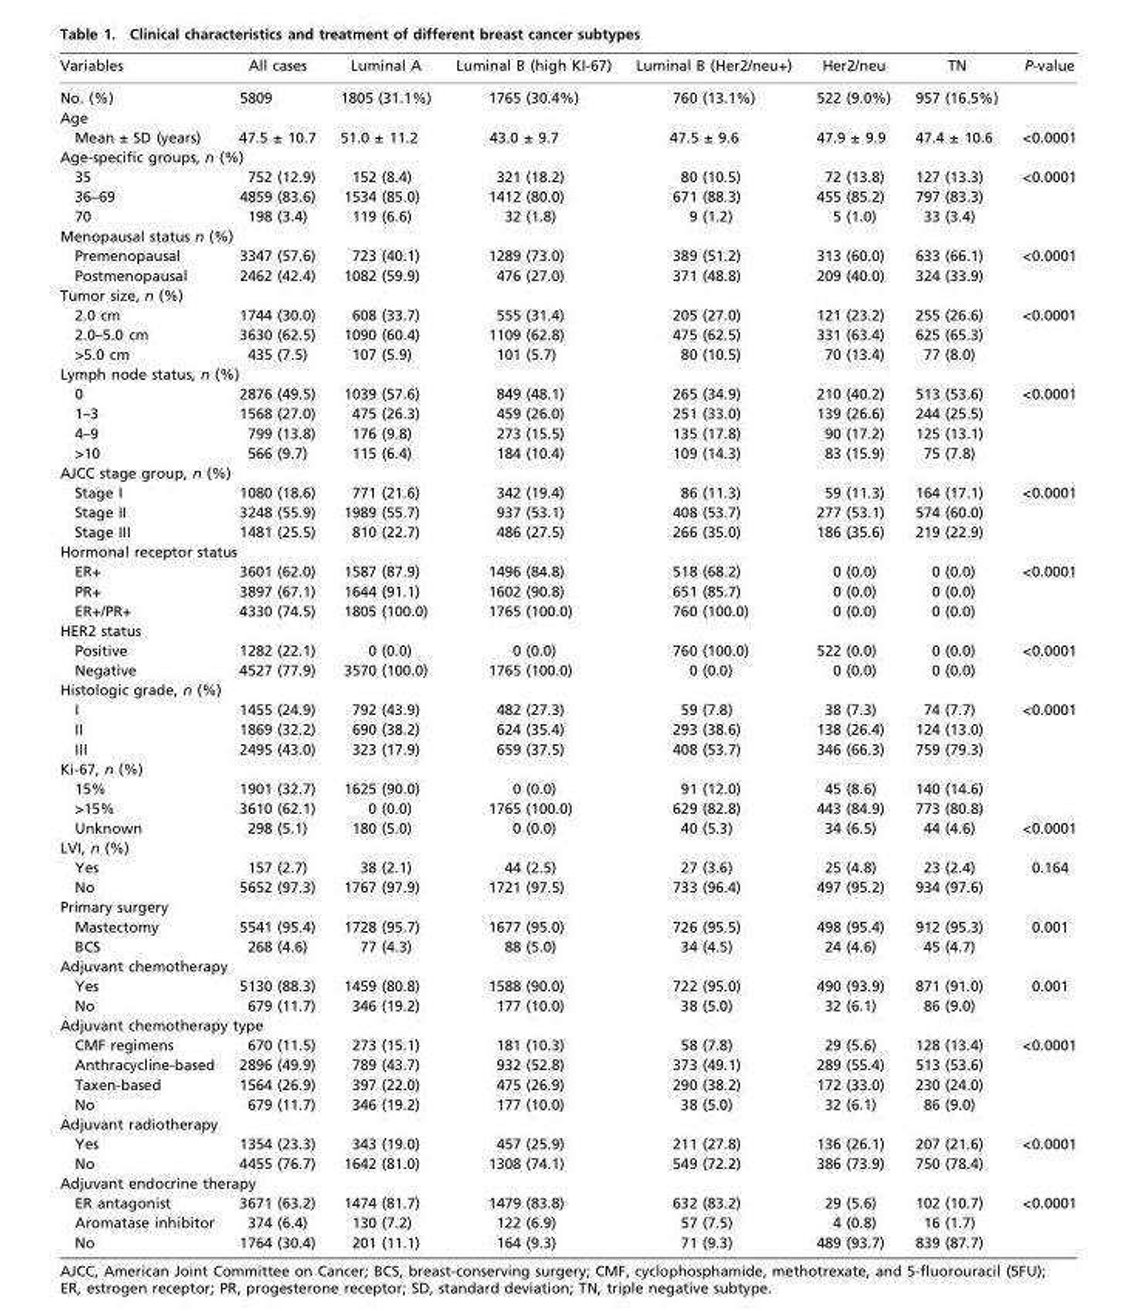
<table><thead><tr><td>Variables</td><td>All cases</td><td>Luminal A</td><td>Luminal B (high KI-67)</td><td>Luminal B (Her2/neu+)</td><td>Her2/neu</td><td>TN</td><td>P-value</td></tr></thead><tbody><tr><td>No. (%)</td><td>5809</td><td>1805 (31.1%)</td><td>1765 (30.4%)</td><td>760 (13.1%)</td><td>522 (9.0%)</td><td>957 (16.5%)</td><td></td></tr><tr><td colspan="8">Age</td></tr><tr><td>Mean ± SD (years)</td><td>47.5 ± 10.7</td><td>51.0 ± 11.2</td><td>43.0 ± 9.7</td><td>47.5 ± 9.6</td><td>47.9 ± 9.9</td><td>47.4 ± 10.6</td><td>&lt;0.0001</td></tr><tr><td colspan="8">Age-specific groups, n (%)</td></tr><tr><td>35</td><td>752 (12.9)</td><td>152 (8.4)</td><td>321 (18.2)</td><td>80 (10.5)</td><td>72 (13.8)</td><td>127 (13.3)</td><td rowspan="3">&lt;0.0001</td></tr><tr><td>36–69</td><td>4859 (83.6)</td><td>1534 (85.0)</td><td>1412 (80.0)</td><td>671 (88.3)</td><td>455 (85.2)</td><td>797 (83.3)</td></tr><tr><td>70</td><td>198 (3.4)</td><td>119 (6.6)</td><td>32 (1.8)</td><td>9 (1.2)</td><td>5 (1.0)</td><td>33 (3.4)</td></tr><tr><td colspan="8">Menopausal status n (%)</td></tr><tr><td>Premenopausal</td><td>3347 (57.6)</td><td>723 (40.1)</td><td>1289 (73.0)</td><td>389 (51.2)</td><td>313 (60.0)</td><td>633 (66.1)</td><td rowspan="2">&lt;0.0001</td></tr><tr><td>Postmenopausal</td><td>2462 (42.4)</td><td>1082 (59.9)</td><td>476 (27.0)</td><td>371 (48.8)</td><td>209 (40.0)</td><td>324 (33.9)</td></tr><tr><td colspan="8">Tumor size, n (%)</td></tr><tr><td>2.0 cm</td><td>1744 (30.0)</td><td>608 (33.7)</td><td>555 (31.4)</td><td>205 (27.0)</td><td>121 (23.2)</td><td>255 (26.6)</td><td rowspan="3">&lt;0.0001</td></tr><tr><td>2.0–5.0 cm</td><td>3630 (62.5)</td><td>1090 (60.4)</td><td>1109 (62.8)</td><td>475 (62.5)</td><td>331 (63.4)</td><td>625 (65.3)</td></tr><tr><td>&gt;5.0 cm</td><td>435 (7.5)</td><td>107 (5.9)</td><td>101 (5.7)</td><td>80 (10.5)</td><td>70 (13.4)</td><td>77 (8.0)</td></tr><tr><td colspan="8">Lymph node status, n (%)</td></tr><tr><td>0</td><td>2876 (49.5)</td><td>1039 (57.6)</td><td>849 (48.1)</td><td>265 (34.9)</td><td>210 (40.2)</td><td>513 (53.6)</td><td rowspan="4">&lt;0.0001</td></tr><tr><td>1–3</td><td>1568 (27.0)</td><td>475 (26.3)</td><td>459 (26.0)</td><td>251 (33.0)</td><td>139 (26.6)</td><td>244 (25.5)</td></tr><tr><td>4–9</td><td>799 (13.8)</td><td>176 (9.8)</td><td>273 (15.5)</td><td>135 (17.8)</td><td>90 (17.2)</td><td>125 (13.1)</td></tr><tr><td>&gt;10</td><td>566 (9.7)</td><td>115 (6.4)</td><td>184 (10.4)</td><td>109 (14.3)</td><td>83 (15.9)</td><td>75 (7.8)</td></tr><tr><td colspan="8">AJCC stage group, n (%)</td></tr><tr><td>Stage I</td><td>1080 (18.6)</td><td>771 (21.6)</td><td>342 (19.4)</td><td>86 (11.3)</td><td>59 (11.3)</td><td>164 (17.1)</td><td rowspan="3">&lt;0.0001</td></tr><tr><td>Stage II</td><td>3248 (55.9)</td><td>1989 (55.7)</td><td>937 (53.1)</td><td>408 (53.7)</td><td>277 (53.1)</td><td>574 (60.0)</td></tr><tr><td>Stage III</td><td>1481 (25.5)</td><td>810 (22.7)</td><td>486 (27.5)</td><td>266 (35.0)</td><td>186 (35.6)</td><td>219 (22.9)</td></tr><tr><td colspan="8">Hormonal receptor status</td></tr><tr><td>ER+</td><td>3601 (62.0)</td><td>1587 (87.9)</td><td>1496 (84.8)</td><td>518 (68.2)</td><td>0 (0.0)</td><td>0 (0.0)</td><td rowspan="3">&lt;0.0001</td></tr><tr><td>PR+</td><td>3897 (67.1)</td><td>1644 (91.1)</td><td>1602 (90.8)</td><td>651 (85.7)</td><td>0 (0.0)</td><td>0 (0.0)</td></tr><tr><td>ER+/PR+</td><td>4330 (74.5)</td><td>1805 (100.0)</td><td>1765 (100.0)</td><td>760 (100.0)</td><td>0 (0.0)</td><td>0 (0.0)</td></tr><tr><td colspan="8">HER2 status</td></tr><tr><td>Positive</td><td>1282 (22.1)</td><td>0 (0.0)</td><td>0 (0.0)</td><td>760 (100.0)</td><td>522 (0.0)</td><td>0 (0.0)</td><td rowspan="2">&lt;0.0001</td></tr><tr><td>Negative</td><td>4527 (77.9)</td><td>3570 (100.0)</td><td>1765 (100.0)</td><td>0 (0.0)</td><td>0 (0.0)</td><td>0 (0.0)</td></tr><tr><td colspan="8">Histologic grade, n (%)</td></tr><tr><td>I</td><td>1455 (24.9)</td><td>792 (43.9)</td><td>482 (27.3)</td><td>59 (7.8)</td><td>38 (7.3)</td><td>74 (7.7)</td><td rowspan="3">&lt;0.0001</td></tr><tr><td>II</td><td>1869 (32.2)</td><td>690 (38.2)</td><td>624 (35.4)</td><td>293 (38.6)</td><td>138 (26.4)</td><td>124 (13.0)</td></tr><tr><td>III</td><td>2495 (43.0)</td><td>323 (17.9)</td><td>659 (37.5)</td><td>408 (53.7)</td><td>346 (66.3)</td><td>759 (79.3)</td></tr><tr><td colspan="8">Ki-67, n (%)</td></tr><tr><td>15%</td><td>1901 (32.7)</td><td>1625 (90.0)</td><td>0 (0.0)</td><td>91 (12.0)</td><td>45 (8.6)</td><td>140 (14.6)</td><td></td></tr><tr><td>&gt;15%</td><td>3610 (62.1)</td><td>0 (0.0)</td><td>1765 (100.0)</td><td>629 (82.8)</td><td>443 (84.9)</td><td>773 (80.8)</td><td></td></tr><tr><td>Unknown</td><td>298 (5.1)</td><td>180 (5.0)</td><td>0 (0.0)</td><td>40 (5.3)</td><td>34 (6.5)</td><td>44 (4.6)</td><td>&lt;0.0001</td></tr><tr><td colspan="8">LVI, n (%)</td></tr><tr><td>Yes</td><td>157 (2.7)</td><td>38 (2.1)</td><td>44 (2.5)</td><td>27 (3.6)</td><td>25 (4.8)</td><td>23 (2.4)</td><td rowspan="2">0.164</td></tr><tr><td>No</td><td>5652 (97.3)</td><td>1767 (97.9)</td><td>1721 (97.5)</td><td>733 (96.4)</td><td>497 (95.2)</td><td>934 (97.6)</td></tr><tr><td colspan="8">Primary surgery</td></tr><tr><td>Mastectomy</td><td>5541 (95.4)</td><td>1728 (95.7)</td><td>1677 (95.0)</td><td>726 (95.5)</td><td>498 (95.4)</td><td>912 (95.3)</td><td rowspan="2">0.001</td></tr><tr><td>BCS</td><td>268 (4.6)</td><td>77 (4.3)</td><td>88 (5.0)</td><td>34 (4.5)</td><td>24 (4.6)</td><td>45 (4.7)</td></tr><tr><td colspan="8">Adjuvant chemotherapy</td></tr><tr><td>Yes</td><td>5130 (88.3)</td><td>1459 (80.8)</td><td>1588 (90.0)</td><td>722 (95.0)</td><td>490 (93.9)</td><td>871 (91.0)</td><td rowspan="2">0.001</td></tr><tr><td>No</td><td>679 (11.7)</td><td>346 (19.2)</td><td>177 (10.0)</td><td>38 (5.0)</td><td>32 (6.1)</td><td>86 (9.0)</td></tr><tr><td colspan="8">Adjuvant chemotherapy type</td></tr><tr><td>CMF regimens</td><td>670 (11.5)</td><td>273 (15.1)</td><td>181 (10.3)</td><td>58 (7.8)</td><td>29 (5.6)</td><td>128 (13.4)</td><td rowspan="4">&lt;0.0001</td></tr><tr><td>Anthracycline-based</td><td>2896 (49.9)</td><td>789 (43.7)</td><td>932 (52.8)</td><td>373 (49.1)</td><td>289 (55.4)</td><td>513 (53.6)</td></tr><tr><td>Taxen-based</td><td>1564 (26.9)</td><td>397 (22.0)</td><td>475 (26.9)</td><td>290 (38.2)</td><td>172 (33.0)</td><td>230 (24.0)</td></tr><tr><td>No</td><td>679 (11.7)</td><td>346 (19.2)</td><td>177 (10.0)</td><td>38 (5.0)</td><td>32 (6.1)</td><td>86 (9.0)</td></tr><tr><td colspan="8">Adjuvant radiotherapy</td></tr><tr><td>Yes</td><td>1354 (23.3)</td><td>343 (19.0)</td><td>457 (25.9)</td><td>211 (27.8)</td><td>136 (26.1)</td><td>207 (21.6)</td><td rowspan="2">&lt;0.0001</td></tr><tr><td>No</td><td>4455 (76.7)</td><td>1642 (81.0)</td><td>1308 (74.1)</td><td>549 (72.2)</td><td>386 (73.9)</td><td>750 (78.4)</td></tr><tr><td colspan="8">Adjuvant endocrine therapy</td></tr><tr><td>ER antagonist</td><td>3671 (63.2)</td><td>1474 (81.7)</td><td>1479 (83.8)</td><td>632 (83.2)</td><td>29 (5.6)</td><td>102 (10.7)</td><td rowspan="3">&lt;0.0001</td></tr><tr><td>Aromatase inhibitor</td><td>374 (6.4)</td><td>130 (7.2)</td><td>122 (6.9)</td><td>57 (7.5)</td><td>4 (0.8)</td><td>16 (1.7)</td></tr><tr><td>No</td><td>1764 (30.4)</td><td>201 (11.1)</td><td>164 (9.3)</td><td>71 (9.3)</td><td>489 (93.7)</td><td>839 (87.7)</td></tr></tbody></table>